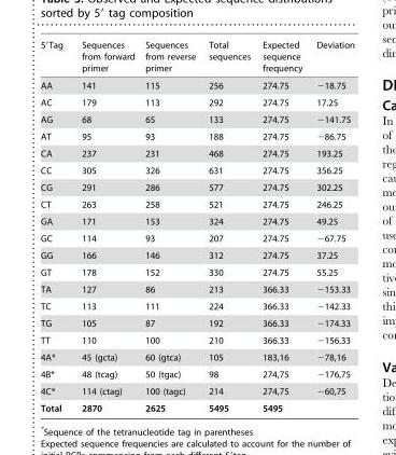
<table><tbody><tr><td>5′Tag</td><td>Sequences from forward primer</td><td>Sequences from reverse primer</td><td>Total sequences</td><td>Expected sequence frequency</td><td>Deviation</td></tr><tr><td>AA</td><td>141</td><td>115</td><td>256</td><td>274.75</td><td>−18.75</td></tr><tr><td>AC</td><td>179</td><td>113</td><td>292</td><td>274.75</td><td>17.25</td></tr><tr><td>AG</td><td>68</td><td>65</td><td>133</td><td>274.75</td><td>−141.75</td></tr><tr><td>AT</td><td>95</td><td>93</td><td>188</td><td>274.75</td><td>−86.75</td></tr><tr><td>CA</td><td>237</td><td>231</td><td>468</td><td>274.75</td><td>193.25</td></tr><tr><td>CC</td><td>305</td><td>326</td><td>631</td><td>274.75</td><td>356.25</td></tr><tr><td>CG</td><td>291</td><td>286</td><td>577</td><td>274.75</td><td>302.25</td></tr><tr><td>CT</td><td>263</td><td>258</td><td>521</td><td>274.75</td><td>246.25</td></tr><tr><td>GA</td><td>171</td><td>153</td><td>324</td><td>274.75</td><td>49.25</td></tr><tr><td>GC</td><td>114</td><td>93</td><td>207</td><td>274.75</td><td>−67.75</td></tr><tr><td>GG</td><td>166</td><td>146</td><td>312</td><td>274.75</td><td>37.25</td></tr><tr><td>GT</td><td>178</td><td>152</td><td>330</td><td>274.75</td><td>55.25</td></tr><tr><td>TA</td><td>127</td><td>86</td><td>213</td><td>366.33</td><td>−153.33</td></tr><tr><td>TC</td><td>113</td><td>111</td><td>224</td><td>366.33</td><td>−142.33</td></tr><tr><td>TG</td><td>105</td><td>87</td><td>192</td><td>366.33</td><td>−174.33</td></tr><tr><td>TT</td><td>110</td><td>100</td><td>210</td><td>366.33</td><td>−156.33</td></tr><tr><td>4A*</td><td>45 (gcta)</td><td>60 (gtca)</td><td>105</td><td>183,16</td><td>−78,16</td></tr><tr><td>4B*</td><td>48 (tcag)</td><td>50 (tgac)</td><td>98</td><td>274,75</td><td>−176,75</td></tr><tr><td>4C*</td><td>114 (ctag)</td><td>100 (tagc)</td><td>214</td><td>274,75</td><td>−60,75</td></tr><tr><td>Total</td><td>2870</td><td>2625</td><td>5495</td><td>5495</td><td></td></tr></tbody></table>